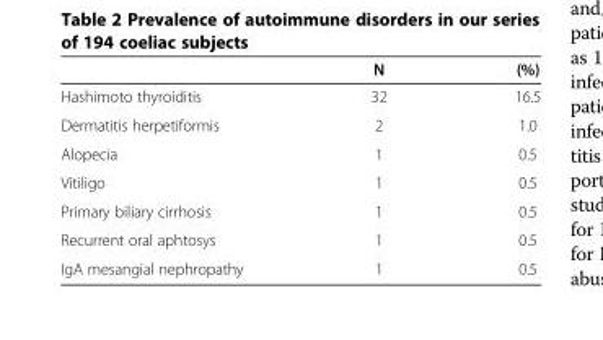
<table><thead><tr><td></td><td>N</td><td>(%)</td></tr></thead><tbody><tr><td>Hashimoto thyroiditis</td><td>32</td><td>16.5</td></tr><tr><td>Dermatitis herpetiformis</td><td>2</td><td>1.0</td></tr><tr><td>Alopecia</td><td>1</td><td>0.5</td></tr><tr><td>Vitiligo</td><td>1</td><td>0.5</td></tr><tr><td>Primary biliary cirrhosis</td><td>1</td><td>0.5</td></tr><tr><td>Recurrent oral aphtosys</td><td>1</td><td>0.5</td></tr><tr><td>IgA mesangial nephropathy</td><td>1</td><td>0.5</td></tr></tbody></table>